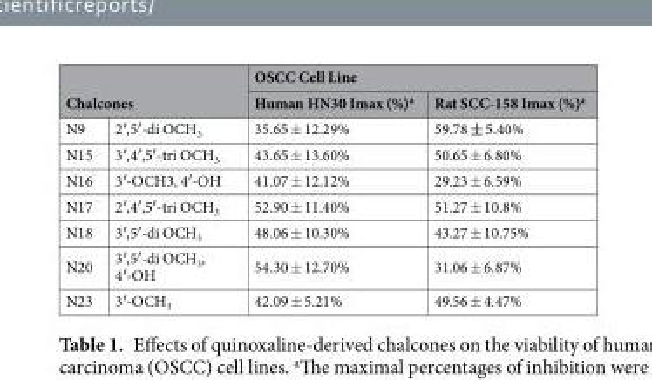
<table><thead><tr><td rowspan="2" colspan="2">Chalcones</td><td colspan="2">OSCC Cell Line</td></tr><tr><td rowspan="2">Human HN30 Imax (%)<sup>a</sup> 35.65 ± 12.29%</td><td rowspan="2">Rat SCC-158 Imax (%)<sup>a</sup> 59.78 ± 5.40%</td></tr><tr><td>N9</td><td>2′,5′-di OCH<sub>3</sub></td></tr></thead><tbody><tr><td>N15</td><td>3′,4′,5′-tri OCH<sub>3</sub></td><td>43.65 ± 13.60%</td><td>50.65 ± 6.80%</td></tr><tr><td>N16</td><td>3′-OCH3, 4′-OH</td><td>41.07 ± 12.12%</td><td>29.23 ± 6.59%</td></tr><tr><td>N17</td><td>2′,4′,5′-tri OCH<sub>3</sub></td><td>52.90 ± 11.40%</td><td>51.27 ± 10.8%</td></tr><tr><td>N18</td><td>3′,5′-di OCH<sub>3</sub></td><td>48.06 ± 10.30%</td><td>43.27 ± 10.75%</td></tr><tr><td>N20</td><td>3′,5′-di OCH<sub>3</sub>, 4′-OH</td><td>54.30 ± 12.70%</td><td>31.06 ± 6.87%</td></tr><tr><td>N23</td><td>3′-OCH<sub>3</sub></td><td>42.09 ± 5.21%</td><td>49.56 ± 4.47%</td></tr></tbody></table>